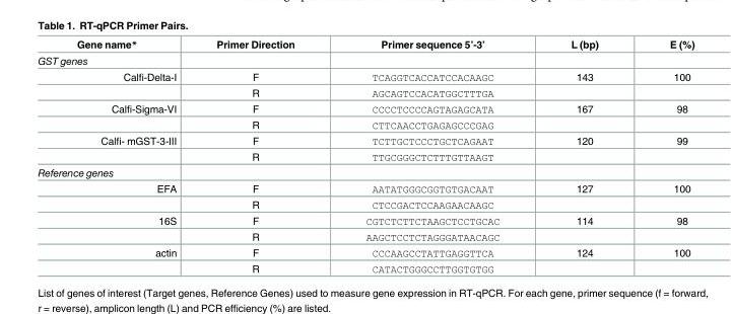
<table><thead><tr><td>Gene name*</td><td>Primer Direction</td><td>Primer sequence 5’-3’</td><td>L (bp)</td><td>E (%)</td></tr></thead><tbody><tr><td colspan="5">GST genes</td></tr><tr><td rowspan="2">Calfi-Delta-I</td><td>F</td><td>TCAGGTCACCATCCACAAGC</td><td>143</td><td>100</td></tr><tr><td>R</td><td>AGCAGTCCACATGGCTTTGA</td><td></td><td></td></tr><tr><td rowspan="2">Calfi-Sigma-VI</td><td>F</td><td>CCCCTCCCCAGTAGAGCATA</td><td>167</td><td>98</td></tr><tr><td>R</td><td>CTTCAACCTGAGAGCCCGAG</td><td></td><td></td></tr><tr><td rowspan="2">Calfi- mGST-3-III</td><td>F</td><td>TCTTGCTCCCTGCTCAGAAT</td><td>120</td><td>99</td></tr><tr><td>R</td><td>TTGCGGGCTCTTTGTTAAGT</td><td></td><td></td></tr><tr><td colspan="5">Reference genes</td></tr><tr><td rowspan="2">EFA</td><td>F</td><td>AATATGGGCGGTGTGACAAT</td><td>127</td><td>100</td></tr><tr><td>R</td><td>CTCCGACTCCAAGAACAAGC</td><td></td><td></td></tr><tr><td rowspan="2">16S</td><td>F</td><td>CGTCTCTTCTAAGCTCCTGCAC</td><td>114</td><td>98</td></tr><tr><td>R</td><td>AAGCTCCTCTAGGGATAACAGC</td><td></td><td></td></tr><tr><td rowspan="2">actin</td><td>F</td><td>CCCAAGCCTATTGAGGTTCA</td><td>124</td><td>100</td></tr><tr><td>R</td><td>CATACTGGGCCTTGGTGTGG</td><td></td><td></td></tr></tbody></table>